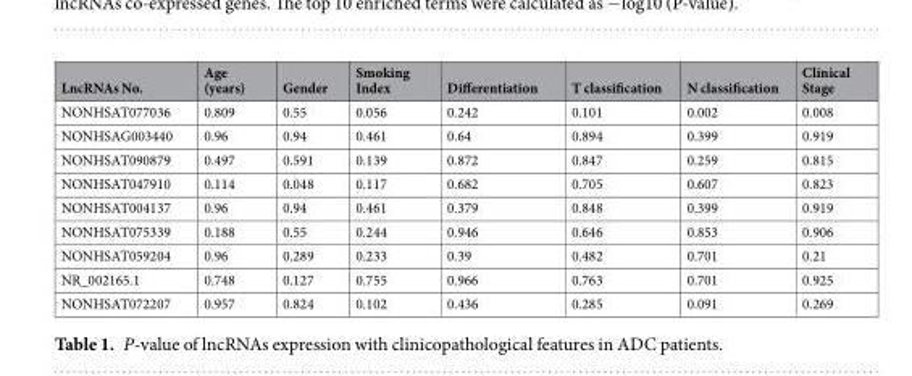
<table><thead><tr><td>LncRNAs No.</td><td>Age (years)</td><td>Gender</td><td>Smoking Index</td><td>Differentiation</td><td>T classification</td><td>N classification</td><td>Clinical Stage</td></tr></thead><tbody><tr><td>NONHSAT077036</td><td>0.809</td><td>0.55</td><td>0.056</td><td>0.242</td><td>0.101</td><td>0.002</td><td>0.008</td></tr><tr><td>NONHSAG003440</td><td>0.96</td><td>0.94</td><td>0.461</td><td>0.64</td><td>0.894</td><td>0.399</td><td>0.919</td></tr><tr><td>NONHSAT090879</td><td>0.497</td><td>0.591</td><td>0.139</td><td>0.872</td><td>0.847</td><td>0.259</td><td>0.815</td></tr><tr><td>NONHSAT047910</td><td>0.114</td><td>0.048</td><td>0.117</td><td>0.682</td><td>0.705</td><td>0.607</td><td>0.823</td></tr><tr><td>NONHSAT004137</td><td>0.96</td><td>0.94</td><td>0.461</td><td>0.379</td><td>0.848</td><td>0.399</td><td>0.919</td></tr><tr><td>NONHSAT075339</td><td>0.188</td><td>0.55</td><td>0.244</td><td>0.946</td><td>0.646</td><td>0.853</td><td>0.906</td></tr><tr><td>NONHSAT059204</td><td>0.96</td><td>0.289</td><td>0.233</td><td>0.39</td><td>0.482</td><td>0.701</td><td>0.21</td></tr><tr><td>NR_002165.1</td><td>0.748</td><td>0.127</td><td>0.755</td><td>0.966</td><td>0.763</td><td>0.701</td><td>0.925</td></tr><tr><td>NONHSAT072207</td><td>0.957</td><td>0.824</td><td>0.102</td><td>0.436</td><td>0.285</td><td>0.091</td><td>0.269</td></tr></tbody></table>